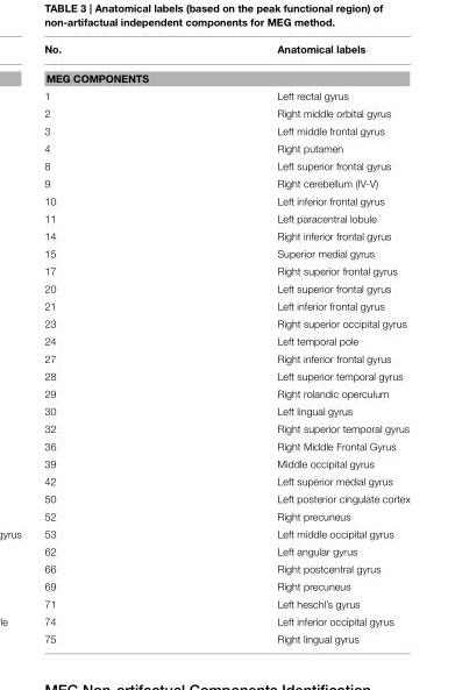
<table><thead><tr><td>No.</td><td>Anatomical labels</td></tr></thead><tbody><tr><td colspan="2">MEG COMPONENTS</td></tr><tr><td>1</td><td>Left rectal gyrus</td></tr><tr><td>2</td><td>Right middle orbital gyrus</td></tr><tr><td>3</td><td>Left middle frontal gyrus</td></tr><tr><td>4</td><td>Right putamen</td></tr><tr><td>8</td><td>Left superior frontal gyrus</td></tr><tr><td>9</td><td>Right cerebellum (IV-V)</td></tr><tr><td>10</td><td>Left inferior frontal gyrus</td></tr><tr><td>11</td><td>Left paracentral lobule</td></tr><tr><td>14</td><td>Right inferior frontal gyrus</td></tr><tr><td>15</td><td>Superior medial gyrus</td></tr><tr><td>17</td><td>Right superior frontal gyrus</td></tr><tr><td>20</td><td>Left superior frontal gyrus</td></tr><tr><td>21</td><td>Left inferior frontal gyrus</td></tr><tr><td>23</td><td>Right superior occipital gyrus</td></tr><tr><td>24</td><td>Left temporal pole</td></tr><tr><td>27</td><td>Right inferior frontal gyrus</td></tr><tr><td>28</td><td>Left superior temporal gyrus</td></tr><tr><td>29</td><td>Right rolandic operculum</td></tr><tr><td>30</td><td>Left lingual gyrus</td></tr><tr><td>32</td><td>Right superior temporal gyrus</td></tr><tr><td>36</td><td>Right Middle Frontal Gyrus</td></tr><tr><td>39</td><td>Middle occipital gyrus</td></tr><tr><td>42</td><td>Left superior medial gyrus</td></tr><tr><td>50</td><td>Left posterior cingulate cortex</td></tr><tr><td>52</td><td>Right precuneus</td></tr><tr><td>53</td><td>Left middle occipital gyrus</td></tr><tr><td>62</td><td>Left angular gyrus</td></tr><tr><td>66</td><td>Right postcentral gyrus</td></tr><tr><td>69</td><td>Right precuneus</td></tr><tr><td>71</td><td>Left heschl’s gyrus</td></tr><tr><td>74</td><td>Left inferior occipital gyrus</td></tr><tr><td>75</td><td>Right lingual gyrus</td></tr></tbody></table>